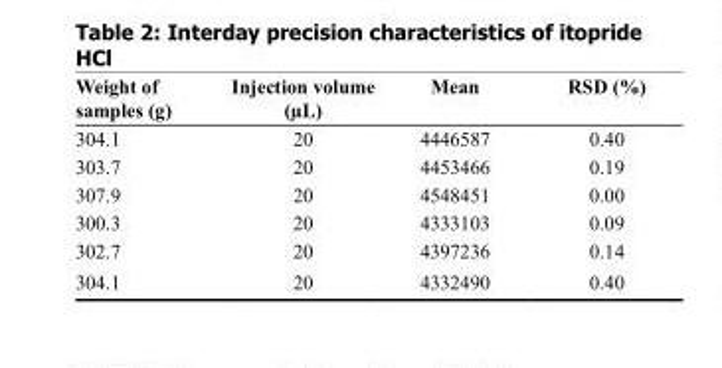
<table><thead><tr><td>Weight of samples (g)</td><td>Injection volume (µL)</td><td>Mean</td><td>RSD (%)</td></tr></thead><tbody><tr><td>304.1</td><td>20</td><td>4446587</td><td>0.40</td></tr><tr><td>303.7</td><td>20</td><td>4453466</td><td>0.19</td></tr><tr><td>307.9</td><td>20</td><td>4548451</td><td>0.00</td></tr><tr><td>300.3</td><td>20</td><td>4333103</td><td>0.09</td></tr><tr><td>302.7</td><td>20</td><td>4397236</td><td>0.14</td></tr><tr><td>304.1</td><td>20</td><td>4332490</td><td>0.40</td></tr></tbody></table>